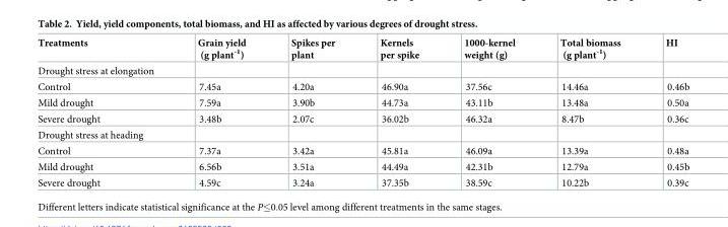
<table><thead><tr><td>Treatments</td><td>Grain yield (g plant<sup>-1</sup>)</td><td>Spikes per plant</td><td>Kernels per spike</td><td>1000-kernel weight (g)</td><td>Total biomass (g plant<sup>-1</sup>)</td><td>HI</td></tr></thead><tbody><tr><td colspan="7">Drought stress at elongation</td></tr><tr><td>Control</td><td>7.45a</td><td>4.20a</td><td>46.90a</td><td>37.56c</td><td>14.46a</td><td>0.46b</td></tr><tr><td>Mild drought</td><td>7.59a</td><td>3.90b</td><td>44.73a</td><td>43.11b</td><td>13.48a</td><td>0.50a</td></tr><tr><td>Severe drought</td><td>3.48b</td><td>2.07c</td><td>36.02b</td><td>46.32a</td><td>8.47b</td><td>0.36c</td></tr><tr><td colspan="7">Drought stress at heading</td></tr><tr><td>Control</td><td>7.37a</td><td>3.42a</td><td>45.81a</td><td>46.09a</td><td>13.39a</td><td>0.48a</td></tr><tr><td>Mild drought</td><td>6.56b</td><td>3.51a</td><td>44.49a</td><td>42.31b</td><td>12.79a</td><td>0.45b</td></tr><tr><td>Severe drought</td><td>4.59c</td><td>3.24a</td><td>37.35b</td><td>38.59c</td><td>10.22b</td><td>0.39c</td></tr></tbody></table>